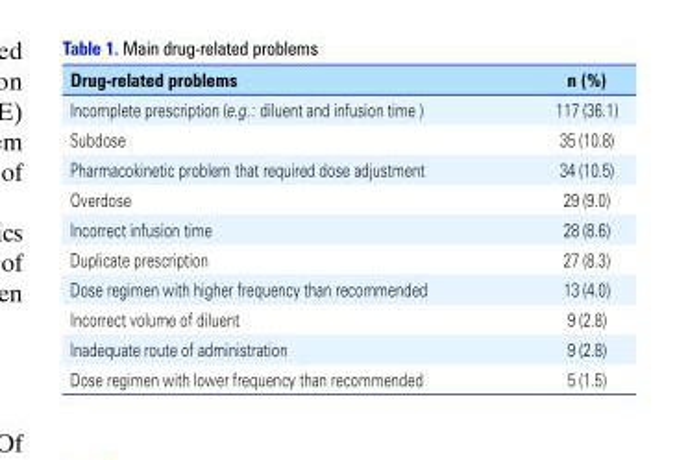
<table><thead><tr><td>Drug-related problems</td><td>n (%)</td></tr></thead><tbody><tr><td>Incomplete prescription (e.g.: diluent and infusion time )</td><td>117 (36.1)</td></tr><tr><td>Subdose</td><td>35 (10.8)</td></tr><tr><td>Pharmacokinetic problem that required dose adjustment</td><td>34 (10.5)</td></tr><tr><td>Overdose</td><td>29 (9.0)</td></tr><tr><td>Incorrect infusion time</td><td>28 (8.6)</td></tr><tr><td>Duplicate prescription</td><td>27 (8.3)</td></tr><tr><td>Dose regimen with higher frequency than recommended</td><td>13 (4.0)</td></tr><tr><td>Incorrect volume of diluent</td><td>9 (2.8)</td></tr><tr><td>Inadequate route of administration</td><td>9 (2.8)</td></tr><tr><td>Dose regimen with lower frequency than recommended</td><td>5 (1.5)</td></tr></tbody></table>